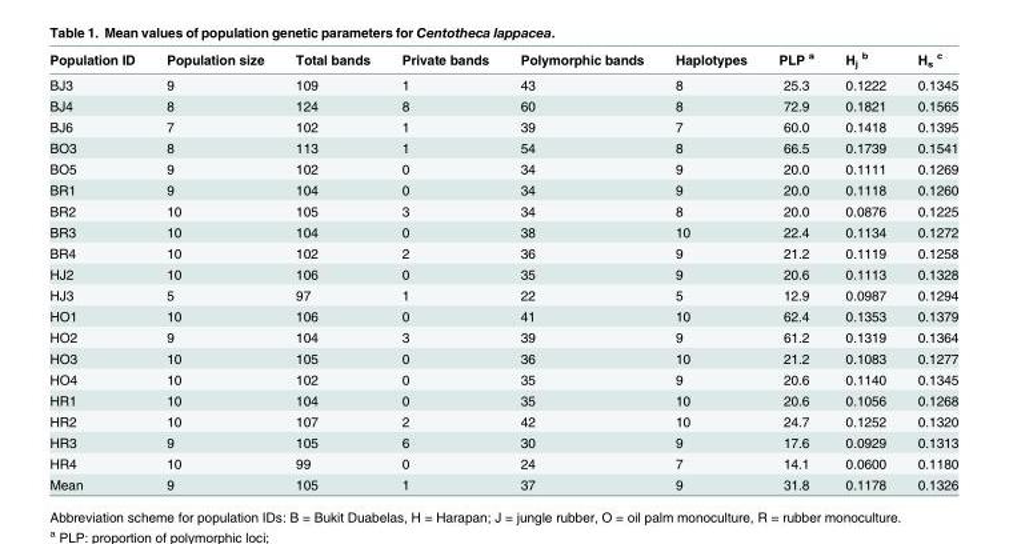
<table><thead><tr><td>Population ID</td><td>Population size</td><td>Total bands</td><td>Private bands</td><td>Polymorphic bands</td><td>Haplotypes</td><td>PLP <sup>a</sup></td><td>H<sub>j</sub> <sup>b</sup></td><td>H<sub>s</sub> <sup>c</sup></td></tr></thead><tbody><tr><td>BJ3</td><td>9</td><td>109</td><td>1</td><td>43</td><td>8</td><td>25.3</td><td>0.1222</td><td>0.1345</td></tr><tr><td>BJ4</td><td>8</td><td>124</td><td>8</td><td>60</td><td>8</td><td>72.9</td><td>0.1821</td><td>0.1565</td></tr><tr><td>BJ6</td><td>7</td><td>102</td><td>1</td><td>39</td><td>7</td><td>60.0</td><td>0.1418</td><td>0.1395</td></tr><tr><td>BO3</td><td>8</td><td>113</td><td>1</td><td>54</td><td>8</td><td>66.5</td><td>0.1739</td><td>0.1541</td></tr><tr><td>BO5</td><td>9</td><td>102</td><td>0</td><td>34</td><td>9</td><td>20.0</td><td>0.1111</td><td>0.1269</td></tr><tr><td>BR1</td><td>9</td><td>104</td><td>0</td><td>34</td><td>9</td><td>20.0</td><td>0.1118</td><td>0.1260</td></tr><tr><td>BR2</td><td>10</td><td>105</td><td>3</td><td>34</td><td>8</td><td>20.0</td><td>0.0876</td><td>0.1225</td></tr><tr><td>BR3</td><td>10</td><td>104</td><td>0</td><td>38</td><td>10</td><td>22.4</td><td>0.1134</td><td>0.1272</td></tr><tr><td>BR4</td><td>10</td><td>102</td><td>2</td><td>36</td><td>9</td><td>21.2</td><td>0.1119</td><td>0.1258</td></tr><tr><td>HJ2</td><td>10</td><td>106</td><td>0</td><td>35</td><td>9</td><td>20.6</td><td>0.1113</td><td>0.1328</td></tr><tr><td>HJ3</td><td>5</td><td>97</td><td>1</td><td>22</td><td>5</td><td>12.9</td><td>0.0987</td><td>0.1294</td></tr><tr><td>HO1</td><td>10</td><td>106</td><td>0</td><td>41</td><td>10</td><td>62.4</td><td>0.1353</td><td>0.1379</td></tr><tr><td>HO2</td><td>9</td><td>104</td><td>3</td><td>39</td><td>9</td><td>61.2</td><td>0.1319</td><td>0.1364</td></tr><tr><td>HO3</td><td>10</td><td>105</td><td>0</td><td>36</td><td>10</td><td>21.2</td><td>0.1083</td><td>0.1277</td></tr><tr><td>HO4</td><td>10</td><td>102</td><td>0</td><td>35</td><td>9</td><td>20.6</td><td>0.1140</td><td>0.1345</td></tr><tr><td>HR1</td><td>10</td><td>104</td><td>0</td><td>35</td><td>10</td><td>20.6</td><td>0.1056</td><td>0.1268</td></tr><tr><td>HR2</td><td>10</td><td>107</td><td>2</td><td>42</td><td>10</td><td>24.7</td><td>0.1252</td><td>0.1320</td></tr><tr><td>HR3</td><td>9</td><td>105</td><td>6</td><td>30</td><td>9</td><td>17.6</td><td>0.0929</td><td>0.1313</td></tr><tr><td>HR4</td><td>10</td><td>99</td><td>0</td><td>24</td><td>7</td><td>14.1</td><td>0.0600</td><td>0.1180</td></tr><tr><td>Mean</td><td>9</td><td>105</td><td>1</td><td>37</td><td>9</td><td>31.8</td><td>0.1178</td><td>0.1326</td></tr></tbody></table>